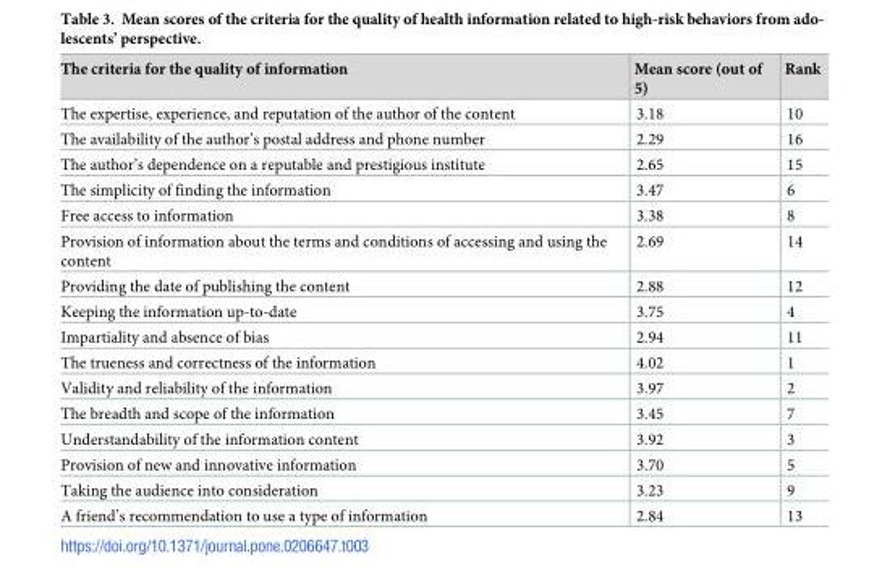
<table><thead><tr><td>The criteria for the quality of information</td><td>Mean score (out of 5)</td><td>Rank</td></tr></thead><tbody><tr><td>The expertise, experience, and reputation of the author of the content</td><td>3.18</td><td>10</td></tr><tr><td>The availability of the author’s postal address and phone number</td><td>2.29</td><td>16</td></tr><tr><td>The author’s dependence on a reputable and prestigious institute</td><td>2.65</td><td>15</td></tr><tr><td>The simplicity of finding the information</td><td>3.47</td><td>6</td></tr><tr><td>Free access to information</td><td>3.38</td><td>8</td></tr><tr><td>Provision of information about the terms and conditions of accessing and using the content</td><td>2.69</td><td>14</td></tr><tr><td>Providing the date of publishing the content</td><td>2.88</td><td>12</td></tr><tr><td>Keeping the information up-to-date</td><td>3.75</td><td>4</td></tr><tr><td>Impartiality and absence of bias</td><td>2.94</td><td>11</td></tr><tr><td>The trueness and correctness of the information</td><td>4.02</td><td>1</td></tr><tr><td>Validity and reliability of the information</td><td>3.97</td><td>2</td></tr><tr><td>The breadth and scope of the information</td><td>3.45</td><td>7</td></tr><tr><td>Understandability of the information content</td><td>3.92</td><td>3</td></tr><tr><td>Provision of new and innovative information</td><td>3.70</td><td>5</td></tr><tr><td>Taking the audience into consideration</td><td>3.23</td><td>9</td></tr><tr><td>A friend’s recommendation to use a type of information</td><td>2.84</td><td>13</td></tr></tbody></table>